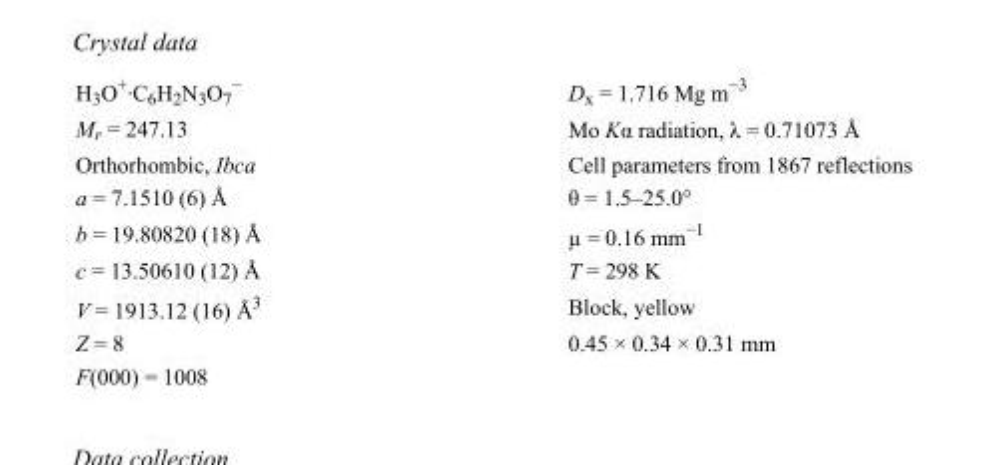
<table><tbody><tr><td>H3O+·C6H2N3O7 −</td><td>Dx = 1.716 Mg m−3</td></tr><tr><td>Mr = 247.13</td><td>Mo Kα radiation, λ = 0.71073 Å</td></tr><tr><td>Orthorhombic, Ibca</td><td>Cell parameters from 1867 reflections</td></tr><tr><td>a = 7.1510 (6) Å</td><td>θ = 1.5–25.0°</td></tr><tr><td>b = 19.80820 (18) Å</td><td>µ = 0.16 mm−1</td></tr><tr><td>c = 13.50610 (12) Å</td><td>T = 298 K</td></tr><tr><td>V = 1913.12 (16) Å3</td><td>Block, yellow</td></tr><tr><td>Z = 8</td><td>0.45 × 0.34 × 0.31 mm</td></tr><tr><td>F(000) = 1008</td><td></td></tr></tbody></table>